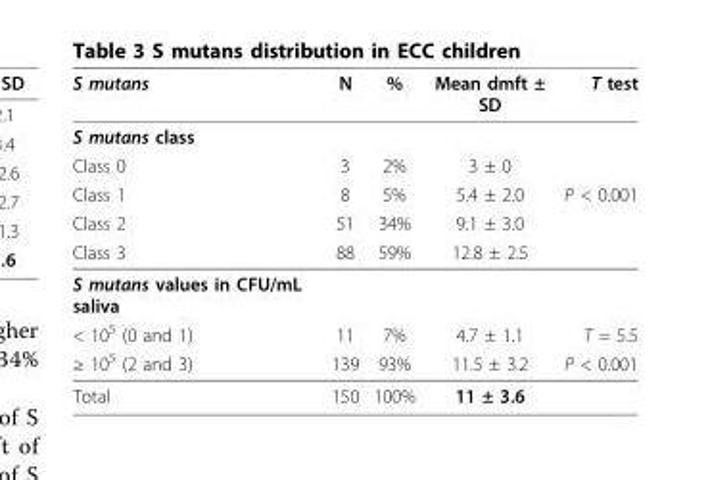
<table><thead><tr><td>S mutans</td><td>N</td><td>%</td><td>Mean dmft ± SD</td><td>T test</td></tr></thead><tbody><tr><td colspan="5">S mutans class</td></tr><tr><td>Class 0</td><td>3</td><td>2%</td><td>3 ± 0</td><td></td></tr><tr><td>Class 1</td><td>8</td><td>5%</td><td>5.4 ± 2.0</td><td>P &lt; 0.001</td></tr><tr><td>Class 2</td><td>51</td><td>34%</td><td>9.1 ± 3.0</td><td></td></tr><tr><td>Class 3</td><td>88</td><td>59%</td><td>12.8 ± 2.5</td><td></td></tr><tr><td colspan="5">S mutans values in CFU/mL saliva</td></tr><tr><td>&lt; 10<sup>5</sup> (0 and 1)</td><td>11</td><td>7%</td><td>4.7 ± 1.1</td><td>T = 5.5</td></tr><tr><td>≥ 10<sup>5</sup> (2 and 3)</td><td>139</td><td>93%</td><td>11.5 ± 3.2</td><td>P &lt; 0.001</td></tr><tr><td>Total</td><td>150</td><td>100%</td><td>11 ± 3.6</td><td></td></tr></tbody></table>